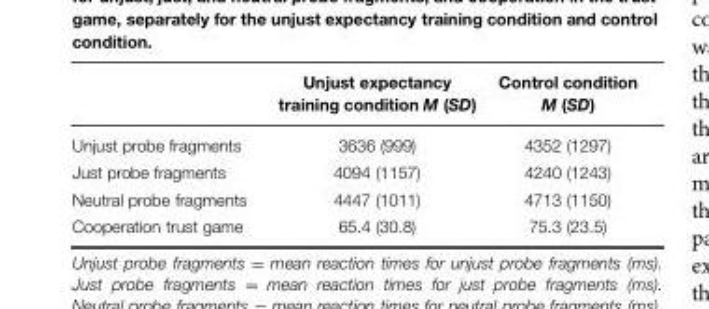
<table><thead><tr><td></td><td>Unjust expectancy training condition M (SD)</td><td>Control condition M (SD)</td></tr></thead><tbody><tr><td>Unjust probe fragments</td><td>3636 (999)</td><td>4352 (1297)</td></tr><tr><td>Just probe fragments</td><td>4094 (1157)</td><td>4240 (1243)</td></tr><tr><td>Neutral probe fragments</td><td>4447 (1011)</td><td>4713 (1150)</td></tr><tr><td>Cooperation trust game</td><td>65.4 (30.8)</td><td>75.3 (23.5)</td></tr></tbody></table>